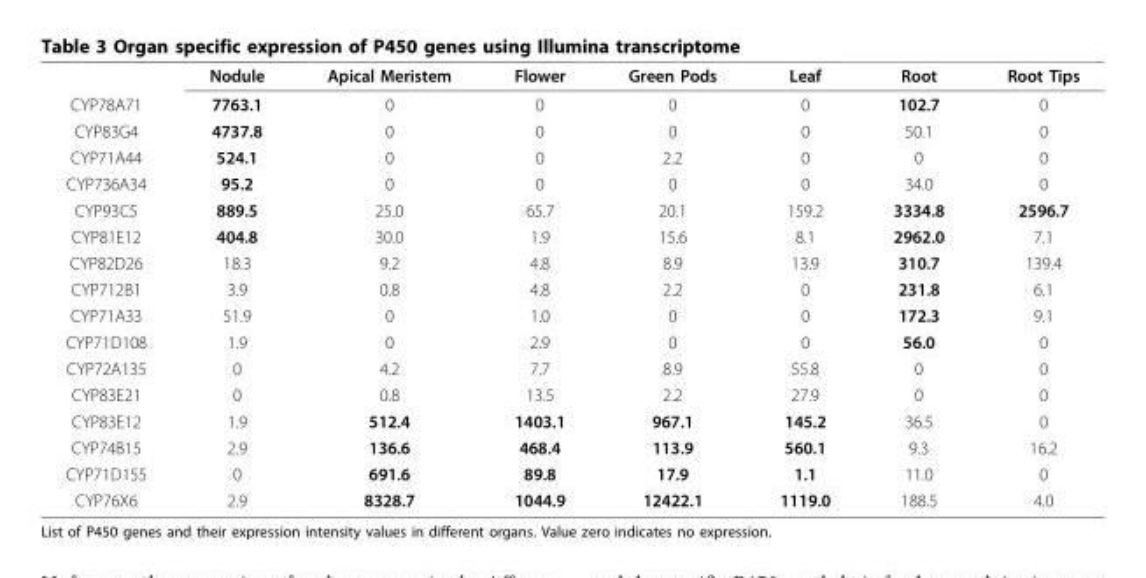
<table><thead><tr><td></td><td>Nodule</td><td>Apical Meristem</td><td>Flower</td><td>Green Pods</td><td>Leaf</td><td>Root</td><td>Root Tips</td></tr></thead><tbody><tr><td>CYP78A71</td><td>7763.1</td><td>0</td><td>0</td><td>0</td><td>0</td><td>102.7</td><td>0</td></tr><tr><td>CYP83G4</td><td>4737.8</td><td>0</td><td>0</td><td>0</td><td>0</td><td>50.1</td><td>0</td></tr><tr><td>CYP71A44</td><td>524.1</td><td>0</td><td>0</td><td>2.2</td><td>0</td><td>0</td><td>0</td></tr><tr><td>CYP736A34</td><td>95.2</td><td>0</td><td>0</td><td>0</td><td>0</td><td>34.0</td><td>0</td></tr><tr><td>CYP93C5</td><td>889.5</td><td>25.0</td><td>65.7</td><td>20.1</td><td>159.2</td><td>3334.8</td><td>2596.7</td></tr><tr><td>CYP81E12</td><td>404.8</td><td>30.0</td><td>1.9</td><td>15.6</td><td>8.1</td><td>2962.0</td><td>7.1</td></tr><tr><td>CYP82D26</td><td>18.3</td><td>9.2</td><td>4.8</td><td>8.9</td><td>13.9</td><td>310.7</td><td>139.4</td></tr><tr><td>CYP712B1</td><td>3.9</td><td>0.8</td><td>4.8</td><td>2.2</td><td>0</td><td>231.8</td><td>6.1</td></tr><tr><td>CYP71A33</td><td>51.9</td><td>0</td><td>1.0</td><td>0</td><td>0</td><td>172.3</td><td>9.1</td></tr><tr><td>CYP71D108</td><td>1.9</td><td>0</td><td>2.9</td><td>0</td><td>0</td><td>56.0</td><td>0</td></tr><tr><td>CYP72A135</td><td>0</td><td>4.2</td><td>7.7</td><td>8.9</td><td>55.8</td><td>0</td><td>0</td></tr><tr><td>CYP83E21</td><td>0</td><td>0.8</td><td>13.5</td><td>2.2</td><td>27.9</td><td>0</td><td>0</td></tr><tr><td>CYP83E12</td><td>1.9</td><td>512.4</td><td>1403.1</td><td>967.1</td><td>145.2</td><td>36.5</td><td>0</td></tr><tr><td>CYP74B15</td><td>2.9</td><td>136.6</td><td>468.4</td><td>113.9</td><td>560.1</td><td>9.3</td><td>16.2</td></tr><tr><td>CYP71D155</td><td>0</td><td>691.6</td><td>89.8</td><td>17.9</td><td>1.1</td><td>11.0</td><td>0</td></tr><tr><td>CYP76X6</td><td>2.9</td><td>8328.7</td><td>1044.9</td><td>12422.1</td><td>1119.0</td><td>188.5</td><td>4.0</td></tr></tbody></table>